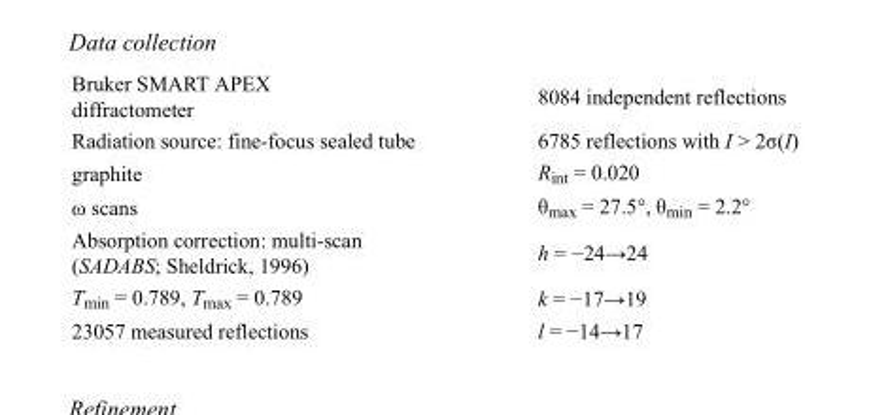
<table><tbody><tr><td>Bruker SMART APEX diffractometer</td><td>8084 independent reflections</td></tr><tr><td>Radiation source: fine-focus sealed tube</td><td>6785 reflections with I &gt; 2σ(I)</td></tr><tr><td>graphite</td><td>R<sub>int</sub> = 0.020</td></tr><tr><td>ω scans</td><td>θ<sub>max</sub> = 27.5°, θ<sub>min</sub> = 2.2°</td></tr><tr><td>Absorption correction: multi-scan (SADABS; Sheldrick, 1996)</td><td>h = −24→24</td></tr><tr><td>T<sub>min</sub> = 0.789, T<sub>max</sub> = 0.789</td><td>k = −17→19</td></tr><tr><td>23057 measured reflections</td><td>l = −14→17</td></tr></tbody></table>